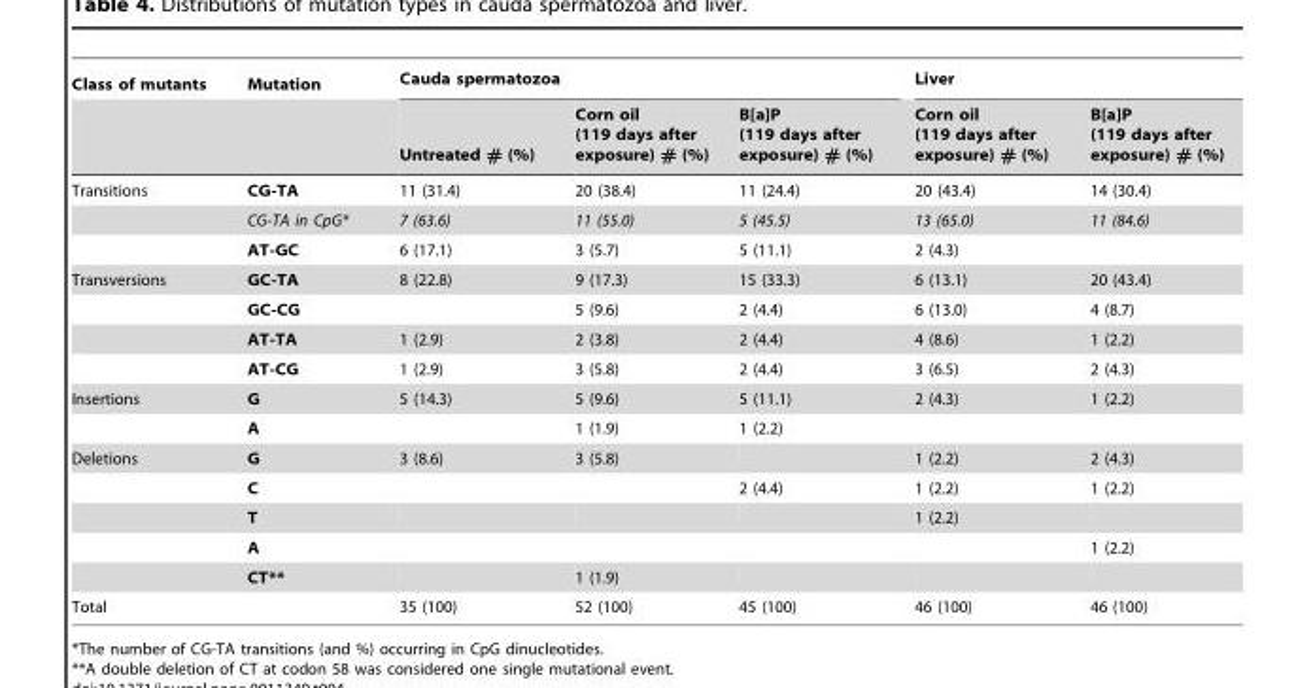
<table><thead><tr><td rowspan="2">Class of mutants</td><td rowspan="2">Mutation</td><td colspan="3">Cauda spermatozoa</td><td colspan="2">Liver</td></tr><tr><td>Untreated # (%)</td><td>Corn oil (119 days after exposure) # (%)</td><td>B[a]P (119 days after exposure) # (%)</td><td>Corn oil (119 days after exposure) # (%)</td><td>B[a]P (119 days after exposure) # (%)</td></tr></thead><tbody><tr><td rowspan="3">Transitions</td><td>CG-TA</td><td>11 (31.4)</td><td>20 (38.4)</td><td>11 (24.4)</td><td>20 (43.4)</td><td>14 (30.4)</td></tr><tr><td>CG-TA in CpG*</td><td>7 (63.6)</td><td>11 (55.0)</td><td>5 (45.5)</td><td>13 (65.0)</td><td>11 (84.6)</td></tr><tr><td>AT-GC</td><td>6 (17.1)</td><td>3 (5.7)</td><td>5 (11.1)</td><td>2 (4.3)</td><td></td></tr><tr><td rowspan="4">Transversions</td><td>GC-TA</td><td>8 (22.8)</td><td>9 (17.3)</td><td>15 (33.3)</td><td>6 (13.1)</td><td>20 (43.4)</td></tr><tr><td>GC-CG</td><td></td><td>5 (9.6)</td><td>2 (4.4)</td><td>6 (13.0)</td><td>4 (8.7)</td></tr><tr><td>AT-TA</td><td>1 (2.9)</td><td>2 (3.8)</td><td>2 (4.4)</td><td>4 (8.6)</td><td>1 (2.2)</td></tr><tr><td>AT-CG</td><td>1 (2.9)</td><td>3 (5.8)</td><td>2 (4.4)</td><td>3 (6.5)</td><td>2 (4.3)</td></tr><tr><td rowspan="2">Insertions</td><td>G</td><td>5 (14.3)</td><td>5 (9.6)</td><td>5 (11.1)</td><td>2 (4.3)</td><td>1 (2.2)</td></tr><tr><td>A</td><td></td><td>1 (1.9)</td><td>1 (2.2)</td><td></td><td></td></tr><tr><td rowspan="5">Deletions</td><td>G</td><td>3 (8.6)</td><td>3 (5.8)</td><td></td><td>1 (2.2)</td><td>2 (4.3)</td></tr><tr><td>C</td><td></td><td></td><td>2 (4.4)</td><td>1 (2.2)</td><td>1 (2.2)</td></tr><tr><td>T</td><td></td><td></td><td></td><td>1 (2.2)</td><td></td></tr><tr><td>A</td><td></td><td></td><td></td><td></td><td>1 (2.2)</td></tr><tr><td>CT**</td><td></td><td>1 (1.9)</td><td></td><td></td><td></td></tr><tr><td colspan="2">Total</td><td>35 (100)</td><td>52 (100)</td><td>45 (100)</td><td>46 (100)</td><td>46 (100)</td></tr></tbody></table>